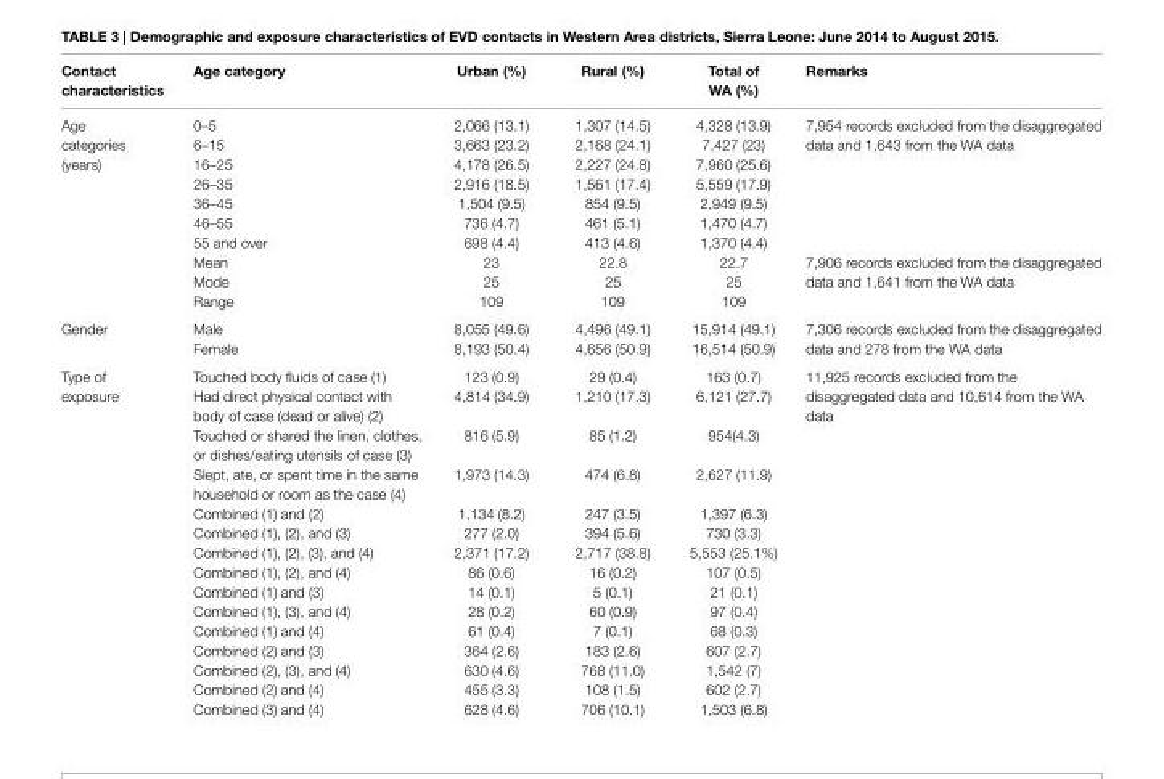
<table><thead><tr><td>contact characteristics</td><td>age category</td><td>Urban (%)</td><td>rural (%)</td><td>Total of Wa (%)</td><td>remarks</td></tr></thead><tbody><tr><td rowspan="10">Age categories (years)</td><td>0–5</td><td>2,066 (13.1)</td><td>1,307 (14.5)</td><td>4,328 (13.9)</td><td rowspan="7">7,954 records excluded from the disaggregated data and 1,643 from the WA data</td></tr><tr><td>6–15</td><td>3,663 (23.2)</td><td>2,168 (24.1)</td><td>7,427 (23)</td></tr><tr><td>16–25</td><td>4,178 (26.5)</td><td>2,227 (24.8)</td><td>7,960 (25.6)</td></tr><tr><td>26–35</td><td>2,916 (18.5)</td><td>1,561 (17.4)</td><td>5,559 (17.9)</td></tr><tr><td>36–45</td><td>1,504 (9.5)</td><td>854 (9.5)</td><td>2,949 (9.5)</td></tr><tr><td>46–55</td><td>736 (4.7)</td><td>461 (5.1)</td><td>1,470 (4.7)</td></tr><tr><td>55 and over</td><td>698 (4.4)</td><td>413 (4.6)</td><td>1,370 (4.4)</td></tr><tr><td>Mean</td><td>23</td><td>22.8</td><td>22.7</td><td rowspan="3">7,906 records excluded from the disaggregated data and 1,641 from the WA data</td></tr><tr><td>Mode</td><td>25</td><td>25</td><td>25</td></tr><tr><td>Range</td><td>109</td><td>109</td><td>109</td></tr><tr><td rowspan="2">Gender</td><td>Male</td><td>8,055 (49.6)</td><td>4,496 (49.1)</td><td>15,914 (49.1)</td><td rowspan="2">7,306 records excluded from the disaggregated data and 278 from the WA data</td></tr><tr><td>Female</td><td>8,193 (50.4)</td><td>4,656 (50.9)</td><td>16,514 (50.9)</td></tr><tr><td rowspan="15">Type of exposure</td><td>Touched body fluids of case (1)</td><td>123 (0.9)</td><td>29 (0.4)</td><td>163 (0.7)</td><td rowspan="15">11,925 records excluded from the disaggregated data and 10,614 from the WA data</td></tr><tr><td>Had direct physical contact with body of case (dead or alive) (2)</td><td>4,814 (34.9)</td><td>1,210 (17.3)</td><td>6,121 (27.7)</td></tr><tr><td>Touched or shared the linen, clothes, or dishes/eating utensils of case (3)</td><td>816 (5.9)</td><td>85 (1.2)</td><td>954(4.3)</td></tr><tr><td>Slept, ate, or spent time in the same household or room as the case (4)</td><td>1,973 (14.3)</td><td>474 (6.8)</td><td>2,627 (11.9)</td></tr><tr><td>Combined (1) and (2)</td><td>1,134 (8.2)</td><td>247 (3.5)</td><td>1,397 (6.3)</td></tr><tr><td>Combined (1), (2), and (3)</td><td>277 (2.0)</td><td>394 (5.6)</td><td>730 (3.3)</td></tr><tr><td>Combined (1), (2), (3), and (4)</td><td>2,371 (17.2)</td><td>2,717 (38.8)</td><td>5,553 (25.1%)</td></tr><tr><td>Combined (1), (2), and (4)</td><td>86 (0.6)</td><td>16 (0.2)</td><td>107 (0.5)</td></tr><tr><td>Combined (1) and (3)</td><td>14 (0.1)</td><td>5 (0.1)</td><td>21 (0.1)</td></tr><tr><td>Combined (1), (3), and (4)</td><td>28 (0.2)</td><td>60 (0.9)</td><td>97 (0.4)</td></tr><tr><td>Combined (1) and (4)</td><td>61 (0.4)</td><td>7 (0.1)</td><td>68 (0.3)</td></tr><tr><td>Combined (2) and (3)</td><td>364 (2.6)</td><td>183 (2.6)</td><td>607 (2.7)</td></tr><tr><td>Combined (2), (3), and (4)</td><td>630 (4.6)</td><td>768 (11.0)</td><td>1,542 (7)</td></tr><tr><td>Combined (2) and (4)</td><td>455 (3.3)</td><td>108 (1.5)</td><td>602 (2.7)</td></tr><tr><td>Combined (3) and (4)</td><td>628 (4.6)</td><td>706 (10.1)</td><td>1,503 (6.8)</td></tr></tbody></table>